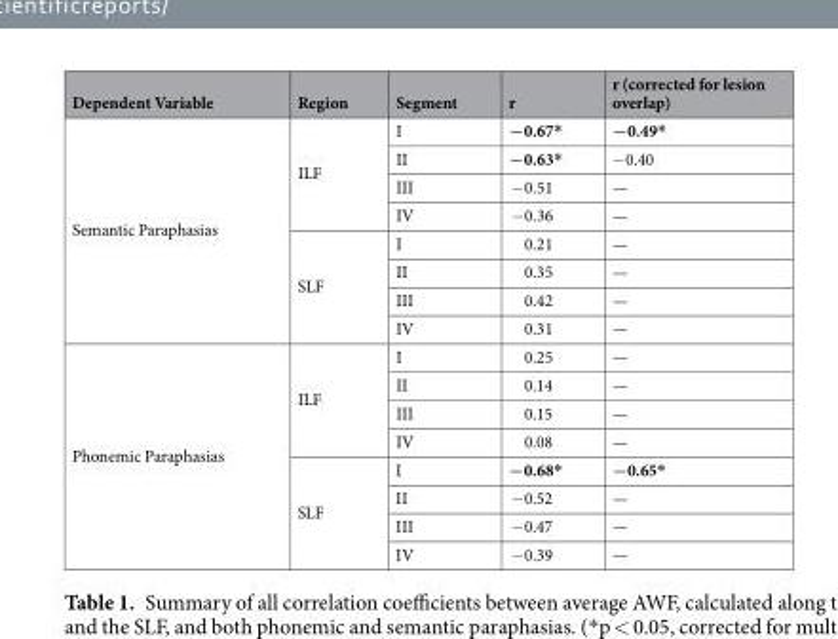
<table><thead><tr><td>Dependent Variable</td><td>Region</td><td>Segment</td><td>r</td><td>r (corrected for lesion overlap)</td></tr></thead><tbody><tr><td rowspan="8">Semantic Paraphasias</td><td rowspan="4">ILF</td><td>I</td><td>−0.67*</td><td>−0.49*</td></tr><tr><td>II</td><td>−0.63*</td><td>−0.40</td></tr><tr><td>III</td><td>−0.51</td><td>—</td></tr><tr><td>IV</td><td>−0.36</td><td>—</td></tr><tr><td rowspan="4">SLF</td><td>I</td><td>0.21</td><td>—</td></tr><tr><td>II</td><td>0.35</td><td>—</td></tr><tr><td>III</td><td>0.42</td><td>—</td></tr><tr><td>IV</td><td>0.31</td><td>—</td></tr><tr><td rowspan="8">Phonemic Paraphasias</td><td rowspan="4">ILF</td><td>I</td><td>0.25</td><td>—</td></tr><tr><td>II</td><td>0.14</td><td>—</td></tr><tr><td>III</td><td>0.15</td><td>—</td></tr><tr><td>IV</td><td>0.08</td><td>—</td></tr><tr><td rowspan="4">SLF</td><td>I</td><td>−0.68*</td><td>−0.65*</td></tr><tr><td>II</td><td>−0.52</td><td>—</td></tr><tr><td>III</td><td>−0.47</td><td>—</td></tr><tr><td>IV</td><td>−0.39</td><td>—</td></tr></tbody></table>